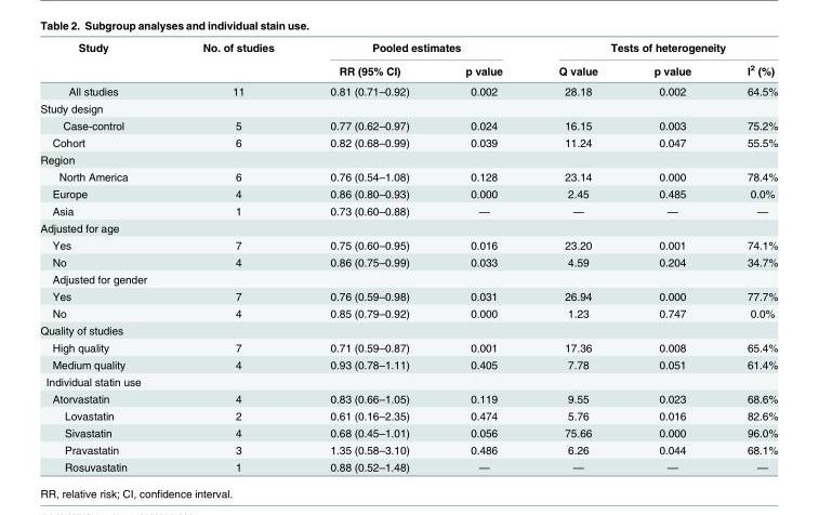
<table><thead><tr><td rowspan="2">Study</td><td rowspan="2">No. of studies</td><td colspan="2">Pooled estimates</td><td colspan="3">Tests of heterogeneity</td></tr><tr><td>RR (95% CI)</td><td>p value</td><td>Q value</td><td>p value</td><td>I<sup>2</sup> (%)</td></tr></thead><tbody><tr><td>All studies</td><td>11</td><td>0.81 (0.71–0.92)</td><td>0.002</td><td>28.18</td><td>0.002</td><td>64.5%</td></tr><tr><td colspan="7">Study design</td></tr><tr><td>Case-control</td><td>5</td><td>0.77 (0.62–0.97)</td><td>0.024</td><td>16.15</td><td>0.003</td><td>75.2%</td></tr><tr><td>Cohort</td><td>6</td><td>0.82 (0.68–0.99)</td><td>0.039</td><td>11.24</td><td>0.047</td><td>55.5%</td></tr><tr><td colspan="7">Region</td></tr><tr><td>North America</td><td>6</td><td>0.76 (0.54–1.08)</td><td>0.128</td><td>23.14</td><td>0.000</td><td>78.4%</td></tr><tr><td>Europe</td><td>4</td><td>0.86 (0.80–0.93)</td><td>0.000</td><td>2.45</td><td>0.485</td><td>0.0%</td></tr><tr><td>Asia</td><td>1</td><td>0.73 (0.60–0.88)</td><td>—</td><td>—</td><td>—</td><td>—</td></tr><tr><td colspan="7">Adjusted for age</td></tr><tr><td>Yes</td><td>7</td><td>0.75 (0.60–0.95)</td><td>0.016</td><td>23.20</td><td>0.001</td><td>74.1%</td></tr><tr><td>No</td><td>4</td><td>0.86 (0.75–0.99)</td><td>0.033</td><td>4.59</td><td>0.204</td><td>34.7%</td></tr><tr><td colspan="7">Adjusted for gender</td></tr><tr><td>Yes</td><td>7</td><td>0.76 (0.59–0.98)</td><td>0.031</td><td>26.94</td><td>0.000</td><td>77.7%</td></tr><tr><td>No</td><td>4</td><td>0.85 (0.79–0.92)</td><td>0.000</td><td>1.23</td><td>0.747</td><td>0.0%</td></tr><tr><td colspan="7">Quality of studies</td></tr><tr><td>High quality</td><td>7</td><td>0.71 (0.59–0.87)</td><td>0.001</td><td>17.36</td><td>0.008</td><td>65.4%</td></tr><tr><td>Medium quality</td><td>4</td><td>0.93 (0.78–1.11)</td><td>0.405</td><td>7.78</td><td>0.051</td><td>61.4%</td></tr><tr><td colspan="7">Individual statin use</td></tr><tr><td>Atorvastatin</td><td>4</td><td>0.83 (0.66–1.05)</td><td>0.119</td><td>9.55</td><td>0.023</td><td>68.6%</td></tr><tr><td>Lovastatin</td><td>2</td><td>0.61 (0.16–2.35)</td><td>0.474</td><td>5.76</td><td>0.016</td><td>82.6%</td></tr><tr><td>Sivastatin</td><td>4</td><td>0.68 (0.45–1.01)</td><td>0.056</td><td>75.66</td><td>0.000</td><td>96.0%</td></tr><tr><td>Pravastatin</td><td>3</td><td>1.35 (0.58–3.10)</td><td>0.486</td><td>6.26</td><td>0.044</td><td>68.1%</td></tr><tr><td>Rosuvastatin</td><td>1</td><td>0.88 (0.52–1.48)</td><td>—</td><td>—</td><td>—</td><td>—</td></tr></tbody></table>